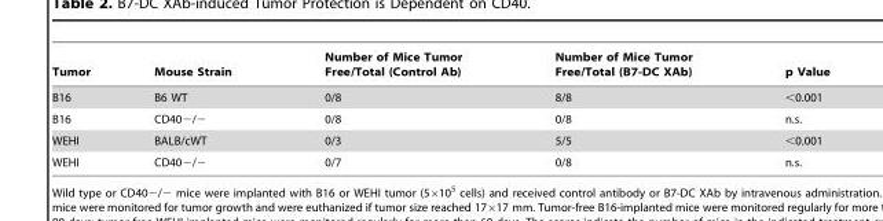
<table><thead><tr><td>Tumor</td><td>Mouse Strain</td><td>Number of Mice Tumor Free/Total (Control Ab)</td><td>Number of Mice Tumor Free/Total (B7-DC XAb)</td><td>p Value</td></tr></thead><tbody><tr><td>B16</td><td>B6 WT</td><td>0/8</td><td>8/8</td><td>&lt;0.001</td></tr><tr><td>B16</td><td>CD40−/−</td><td>0/8</td><td>0/8</td><td>n.s.</td></tr><tr><td>WEHI</td><td>BALB/cWT</td><td>0/3</td><td>5/5</td><td>&lt;0.001</td></tr><tr><td>WEHI</td><td>CD40−/−</td><td>0/7</td><td>0/8</td><td>n.s.</td></tr></tbody></table>